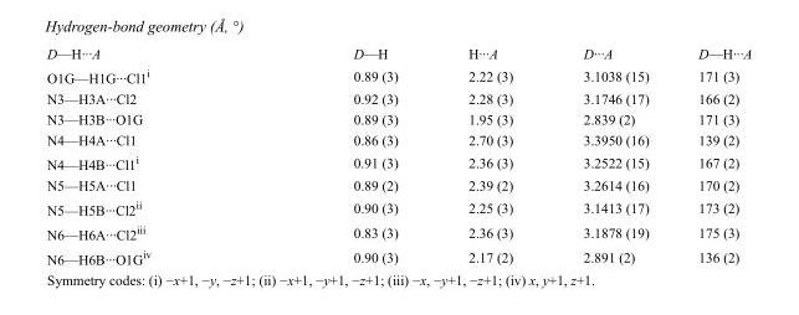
<table><tbody><tr><td>D—H···A</td><td>D—H</td><td>H···A</td><td>D···A</td><td>D—H···A</td></tr><tr><td>O1G—H1G···Cl1<sup>i</sup></td><td>0.89 (3)</td><td>2.22 (3)</td><td>3.1038 (15)</td><td>171 (3)</td></tr><tr><td>N3—H3A···Cl2</td><td>0.92 (3)</td><td>2.28 (3)</td><td>3.1746 (17)</td><td>166 (2)</td></tr><tr><td>N3—H3B···O1G</td><td>0.89 (3)</td><td>1.95 (3)</td><td>2.839 (2)</td><td>171 (3)</td></tr><tr><td>N4—H4A···Cl1</td><td>0.86 (3)</td><td>2.70 (3)</td><td>3.3950 (16)</td><td>139 (2)</td></tr><tr><td>N4—H4B···Cl1<sup>i</sup></td><td>0.91 (3)</td><td>2.36 (3)</td><td>3.2522 (15)</td><td>167 (2)</td></tr><tr><td>N5—H5A···Cl1</td><td>0.89 (2)</td><td>2.39 (2)</td><td>3.2614 (16)</td><td>170 (2)</td></tr><tr><td>N5—H5B···Cl2<sup>ii</sup></td><td>0.90 (3)</td><td>2.25 (3)</td><td>3.1413 (17)</td><td>173 (2)</td></tr><tr><td>N6—H6A···Cl2<sup>iii</sup></td><td>0.83 (3)</td><td>2.36 (3)</td><td>3.1878 (19)</td><td>175 (3)</td></tr><tr><td>N6—H6B···O1G<sup>iv</sup></td><td>0.90 (3)</td><td>2.17 (2)</td><td>2.891 (2)</td><td>136 (2)</td></tr></tbody></table>